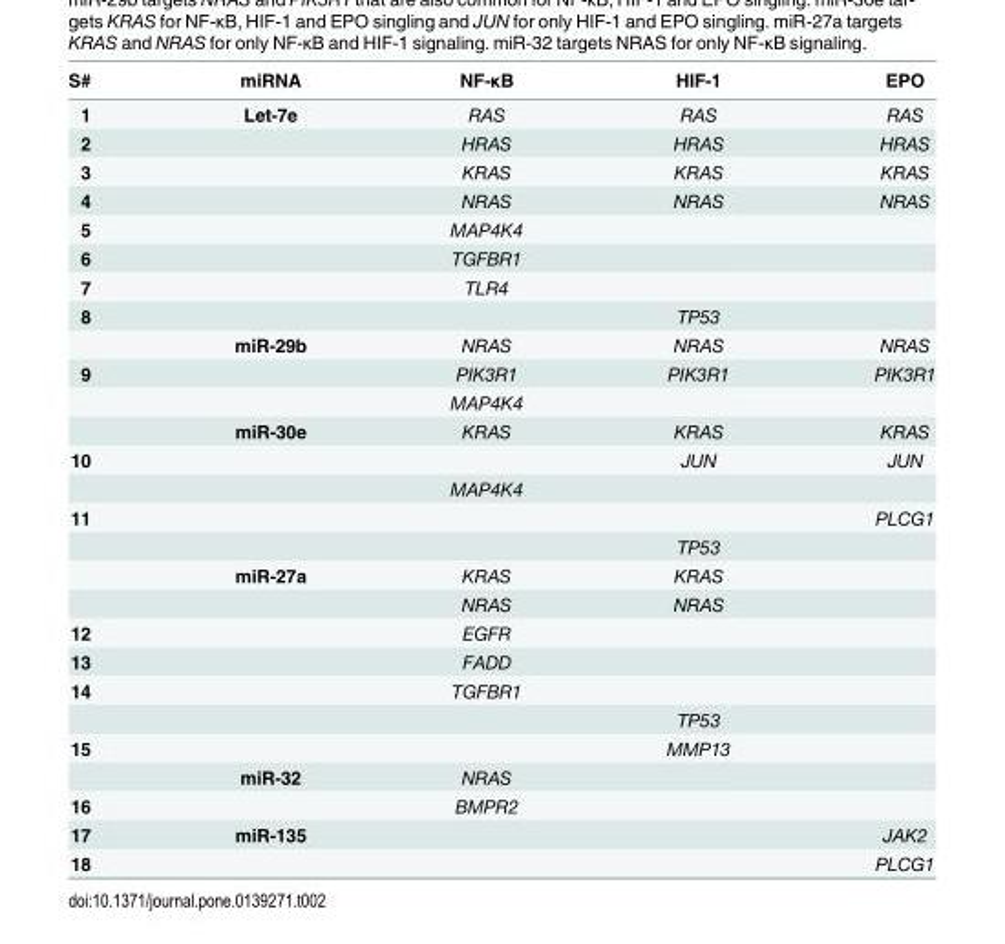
<table><thead><tr><td>S#</td><td>miRNA</td><td>NF-κB</td><td>HIF-1</td><td>EPO</td></tr></thead><tbody><tr><td>1</td><td>Let-7e</td><td>RAS</td><td>RAS</td><td>RAS</td></tr><tr><td>2</td><td></td><td>HRAS</td><td>HRAS</td><td>HRAS</td></tr><tr><td>3</td><td></td><td>KRAS</td><td>KRAS</td><td>KRAS</td></tr><tr><td>4</td><td></td><td>NRAS</td><td>NRAS</td><td>NRAS</td></tr><tr><td>5</td><td></td><td>MAP4K4</td><td></td><td></td></tr><tr><td>6</td><td></td><td>TGFBR1</td><td></td><td></td></tr><tr><td>7</td><td></td><td>TLR4</td><td></td><td></td></tr><tr><td rowspan="2">8</td><td></td><td></td><td>TP53</td><td></td></tr><tr><td>miR-29b</td><td>NRAS</td><td>NRAS</td><td>NRAS</td></tr><tr><td rowspan="3">9</td><td></td><td>PIK3R1</td><td>PIK3R1</td><td>PIK3R1</td></tr><tr><td></td><td>MAP4K4</td><td></td><td></td></tr><tr><td>miR-30e</td><td>KRAS</td><td>KRAS</td><td>KRAS</td></tr><tr><td rowspan="2">10</td><td></td><td></td><td>JUN</td><td>JUN</td></tr><tr><td></td><td>MAP4K4</td><td></td><td></td></tr><tr><td rowspan="4">11</td><td></td><td></td><td></td><td>PLCG1</td></tr><tr><td></td><td></td><td>TP53</td><td></td></tr><tr><td>miR-27a</td><td>KRAS</td><td>KRAS</td><td></td></tr><tr><td></td><td>NRAS</td><td>NRAS</td><td></td></tr><tr><td>12</td><td></td><td>EGFR</td><td></td><td></td></tr><tr><td>13</td><td></td><td>FADD</td><td></td><td></td></tr><tr><td rowspan="2">14</td><td></td><td>TGFBR1</td><td></td><td></td></tr><tr><td></td><td></td><td>TP53</td><td></td></tr><tr><td rowspan="2">15</td><td></td><td></td><td>MMP13</td><td></td></tr><tr><td>miR-32</td><td>NRAS</td><td></td><td></td></tr><tr><td>16</td><td></td><td>BMPR2</td><td></td><td></td></tr><tr><td>17</td><td>miR-135</td><td></td><td></td><td>JAK2</td></tr><tr><td>18</td><td></td><td></td><td></td><td>PLCG1</td></tr></tbody></table>